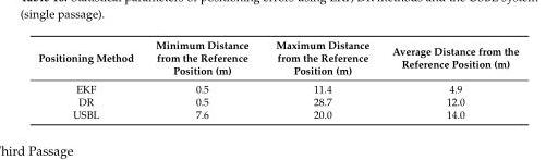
<table><thead><tr><td>Positioning Method</td><td>Minimum Distance from the Reference Position (m)</td><td>Maximum Distance from the Reference Position (m)</td><td>Average Distance from the Reference Position (m)</td></tr></thead><tbody><tr><td>EKF</td><td>0.5</td><td>11.4</td><td>4.9</td></tr><tr><td>DR</td><td>0.5</td><td>28.7</td><td>12.0</td></tr><tr><td>USBL</td><td>7.6</td><td>20.0</td><td>14.0</td></tr></tbody></table>